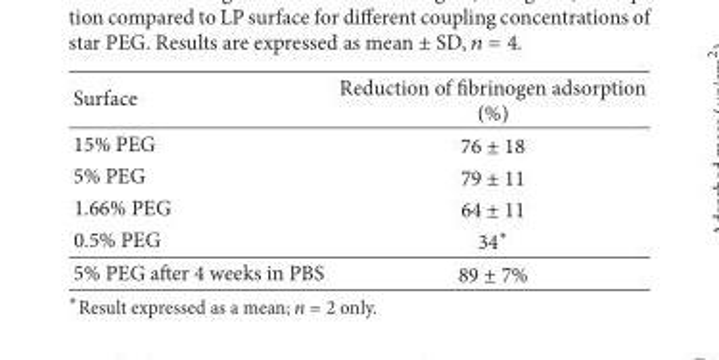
<table><thead><tr><td>Surface</td><td>Reduction of �brinogen adsorption (%)</td></tr></thead><tbody><tr><td>15% PEG</td><td>76 ± 18</td></tr><tr><td>5% PEG</td><td>79 ± 11</td></tr><tr><td>1.66% PEG</td><td>64 ± 11</td></tr><tr><td>0.5% PEG</td><td>34∗</td></tr><tr><td>5% PEG aer 4 weeks in PBS</td><td>89 ± 7%</td></tr></tbody></table>